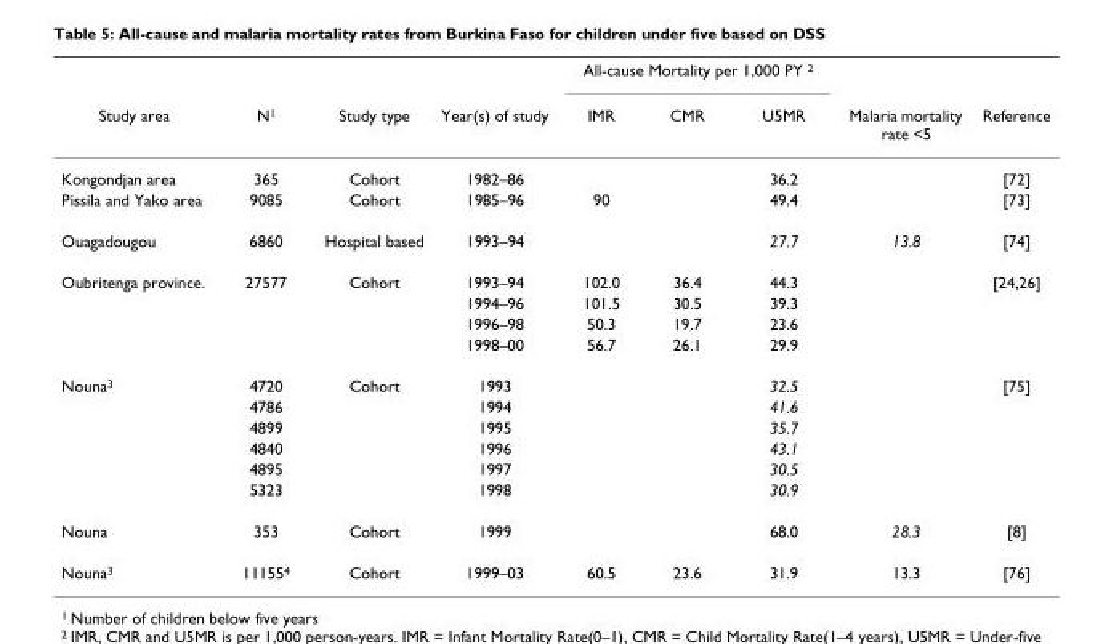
<table><thead><tr><td rowspan="2">Study area</td><td rowspan="2">N<sup>1</sup></td><td rowspan="2">Study type</td><td rowspan="2">Year(s) of study</td><td colspan="3">All-cause Mortality per 1,000 PY <sup>2</sup></td><td rowspan="2">Malaria mortality rate &lt;5</td><td rowspan="2">Reference</td></tr><tr><td>IMR</td><td>CMR</td><td>U5MR</td></tr></thead><tbody><tr><td>Kongondjan area</td><td>365</td><td>Cohort</td><td>1982–86</td><td></td><td></td><td>36.2</td><td></td><td>[72]</td></tr><tr><td>Pissila and Yako area</td><td>9085</td><td>Cohort</td><td>1985–96</td><td>90</td><td></td><td>49.4</td><td></td><td>[73]</td></tr><tr><td>Ouagadougou</td><td>6860</td><td>Hospital based</td><td>1993–94</td><td></td><td></td><td>27.7</td><td>13.8</td><td>[74]</td></tr><tr><td rowspan="4">Oubritenga province.</td><td>27577</td><td>Cohort</td><td>1993–94</td><td>102.0</td><td>36.4</td><td>44.3</td><td></td><td>[24,26]</td></tr><tr><td></td><td></td><td>1994–96</td><td>101.5</td><td>30.5</td><td>39.3</td><td></td><td></td></tr><tr><td></td><td></td><td>1996–98</td><td>50.3</td><td>19.7</td><td>23.6</td><td></td><td></td></tr><tr><td></td><td></td><td>1998–00</td><td>56.7</td><td>26.1</td><td>29.9</td><td></td><td></td></tr><tr><td rowspan="6">Nouna<sup>3</sup></td><td>4720</td><td>Cohort</td><td>1993</td><td></td><td></td><td>32.5</td><td></td><td>[75]</td></tr><tr><td>4786</td><td></td><td>1994</td><td></td><td></td><td>41.6</td><td></td><td></td></tr><tr><td>4899</td><td></td><td>1995</td><td></td><td></td><td>35.7</td><td></td><td></td></tr><tr><td>4840</td><td></td><td>1996</td><td></td><td></td><td>43.1</td><td></td><td></td></tr><tr><td>4895</td><td></td><td>1997</td><td></td><td></td><td>30.5</td><td></td><td></td></tr><tr><td>5323</td><td></td><td>1998</td><td></td><td></td><td>30.9</td><td></td><td></td></tr><tr><td>Nouna</td><td>353</td><td>Cohort</td><td>1999</td><td></td><td></td><td>68.0</td><td>28.3</td><td>[8]</td></tr><tr><td>Nouna<sup>3</sup></td><td>11155<sup>4</sup></td><td>Cohort</td><td>1999–03</td><td>60.5</td><td>23.6</td><td>31.9</td><td>13.3</td><td>[76]</td></tr></tbody></table>